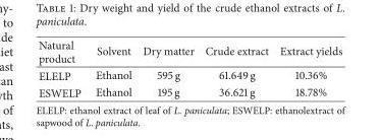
<table><thead><tr><td>Natural product</td><td>Solvent</td><td>Dry matter</td><td>Crude extract</td><td>Extract yields</td></tr></thead><tbody><tr><td>ELELP</td><td>Ethanol</td><td>595 g</td><td>61.649 g</td><td>10.36%</td></tr><tr><td>ESWELP</td><td>Ethanol</td><td>195 g</td><td>36.621 g</td><td>18.78%</td></tr></tbody></table>